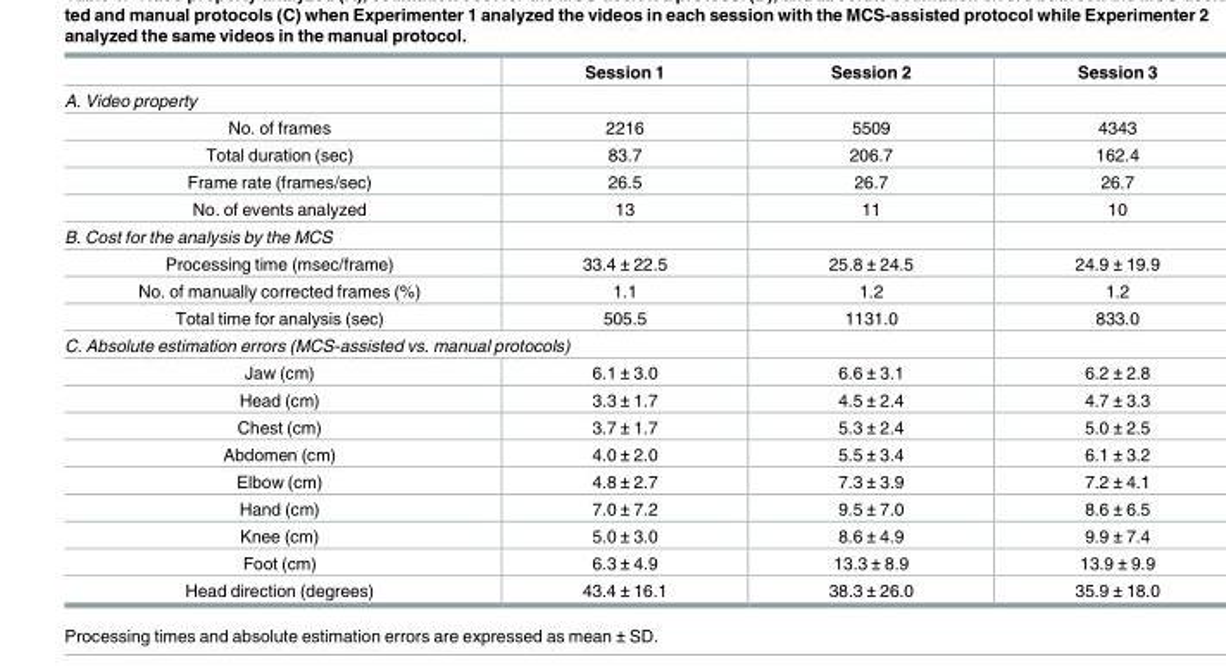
<table><thead><tr><td></td><td>Session 1</td><td>Session 2</td><td>Session 3</td></tr></thead><tbody><tr><td colspan="4">A. Video property</td></tr><tr><td>No. of frames</td><td>2216</td><td>5509</td><td>4343</td></tr><tr><td>Total duration (sec)</td><td>83.7</td><td>206.7</td><td>162.4</td></tr><tr><td>Frame rate (frames/sec)</td><td>26.5</td><td>26.7</td><td>26.7</td></tr><tr><td>No. of events analyzed</td><td>13</td><td>11</td><td>10</td></tr><tr><td colspan="4">B. Cost for the analysis by the MCS</td></tr><tr><td>Processing time (msec/frame)</td><td>33.4 ± 22.5</td><td>25.8 ± 24.5</td><td>24.9 ± 19.9</td></tr><tr><td>No. of manually corrected frames (%)</td><td>1.1</td><td>1.2</td><td>1.2</td></tr><tr><td>Total time for analysis (sec)</td><td>505.5</td><td>1131.0</td><td>833.0</td></tr><tr><td colspan="4">C. Absolute estimation errors (MCS-assisted vs. manual protocols)</td></tr><tr><td>Jaw (cm)</td><td>6.1 ± 3.0</td><td>6.6 ± 3.1</td><td>6.2 ± 2.8</td></tr><tr><td>Head (cm)</td><td>3.3 ± 1.7</td><td>4.5 ± 2.4</td><td>4.7 ± 3.3</td></tr><tr><td>Chest (cm)</td><td>3.7 ± 1.7</td><td>5.3 ± 2.4</td><td>5.0 ± 2.5</td></tr><tr><td>Abdomen (cm)</td><td>4.0 ± 2.0</td><td>5.5 ± 3.4</td><td>6.1 ± 3.2</td></tr><tr><td>Elbow (cm)</td><td>4.8 ± 2.7</td><td>7.3 ± 3.9</td><td>7.2 ± 4.1</td></tr><tr><td>Hand (cm)</td><td>7.0 ± 7.2</td><td>9.5 ± 7.0</td><td>8.6 ± 6.5</td></tr><tr><td>Knee (cm)</td><td>5.0 ± 3.0</td><td>8.6 ± 4.9</td><td>9.9 ± 7.4</td></tr><tr><td>Foot (cm)</td><td>6.3 ± 4.9</td><td>13.3 ± 8.9</td><td>13.9 ± 9.9</td></tr><tr><td>Head direction (degrees)</td><td>43.4 ± 16.1</td><td>38.3 ± 26.0</td><td>35.9 ± 18.0</td></tr></tbody></table>